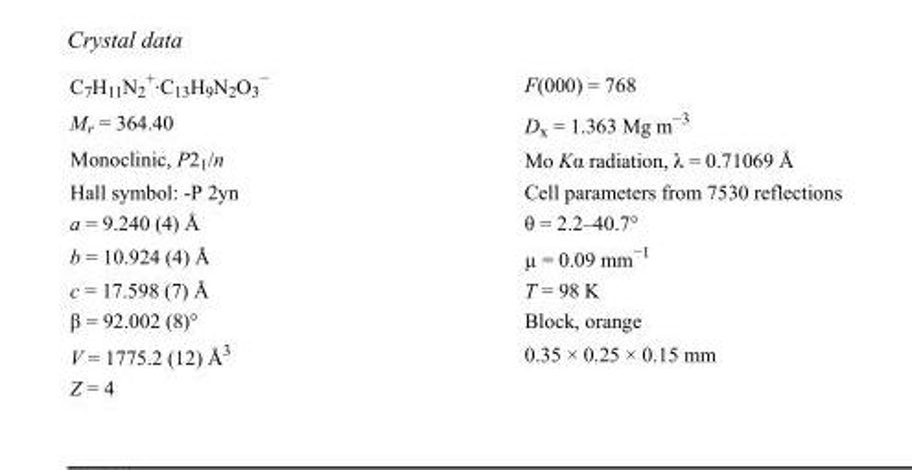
<table><tbody><tr><td>C<sub>7</sub>H<sub>11</sub>N<sub>2</sub> <sup>+</sup>·C<sub>13</sub>H<sub>9</sub>N<sub>2</sub>O<sub>3</sub> <sup>−</sup></td><td>F(000) = 768</td></tr><tr><td>M<sub>r</sub> = 364.40</td><td>D<sub>x</sub> = 1.363 Mg m<sup>−3</sup></td></tr><tr><td>Monoclinic, P2<sub>1</sub>/n</td><td>Mo Kα radiation, λ = 0.71069 Å</td></tr><tr><td>Hall symbol: -P 2yn</td><td>Cell parameters from 7530 reflections</td></tr><tr><td>a = 9.240 (4) Å</td><td>θ = 2.2–40.7°</td></tr><tr><td>b = 10.924 (4) Å</td><td>µ = 0.09 mm<sup>−1</sup></td></tr><tr><td>c = 17.598 (7) Å</td><td>T = 98 K</td></tr><tr><td>β = 92.002 (8)°</td><td>Block, orange</td></tr><tr><td>V = 1775.2 (12) Å<sup>3</sup></td><td>0.35 × 0.25 × 0.15 mm</td></tr><tr><td>Z = 4</td><td></td></tr></tbody></table>